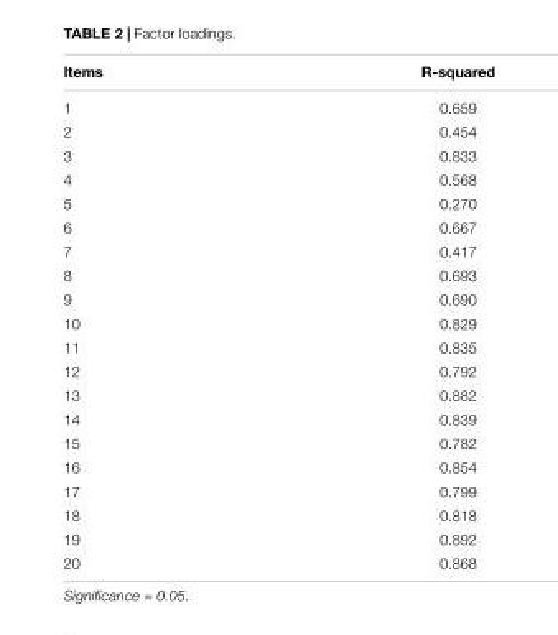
<table><thead><tr><td>Items</td><td>R-squared</td></tr></thead><tbody><tr><td>1</td><td>0.659</td></tr><tr><td>2</td><td>0.454</td></tr><tr><td>3</td><td>0.833</td></tr><tr><td>4</td><td>0.568</td></tr><tr><td>5</td><td>0.270</td></tr><tr><td>6</td><td>0.667</td></tr><tr><td>7</td><td>0.417</td></tr><tr><td>8</td><td>0.693</td></tr><tr><td>9</td><td>0.690</td></tr><tr><td>10</td><td>0.829</td></tr><tr><td>11</td><td>0.835</td></tr><tr><td>12</td><td>0.792</td></tr><tr><td>13</td><td>0.882</td></tr><tr><td>14</td><td>0.839</td></tr><tr><td>15</td><td>0.782</td></tr><tr><td>16</td><td>0.854</td></tr><tr><td>17</td><td>0.799</td></tr><tr><td>18</td><td>0.818</td></tr><tr><td>19</td><td>0.892</td></tr><tr><td>20</td><td>0.868</td></tr></tbody></table>